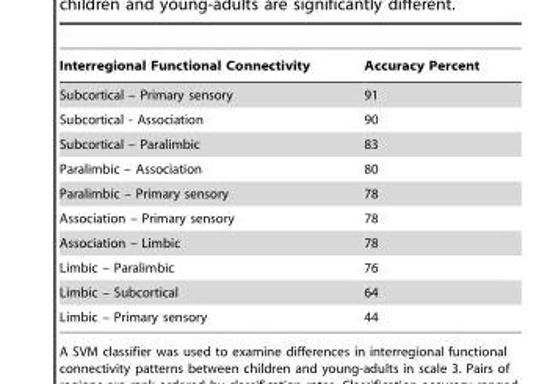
<table><thead><tr><td>Interregional Functional Connectivity</td><td>Accuracy Percent</td></tr></thead><tbody><tr><td>Subcortical – Primary sensory</td><td>91</td></tr><tr><td>Subcortical - Association</td><td>90</td></tr><tr><td>Subcortical – Paralimbic</td><td>83</td></tr><tr><td>Paralimbic – Association</td><td>80</td></tr><tr><td>Paralimbic – Primary sensory</td><td>78</td></tr><tr><td>Association – Primary sensory</td><td>78</td></tr><tr><td>Association – Limbic</td><td>78</td></tr><tr><td>Limbic – Paralimbic</td><td>76</td></tr><tr><td>Limbic – Subcortical</td><td>64</td></tr><tr><td>Limbic – Primary sensory</td><td>44</td></tr></tbody></table>